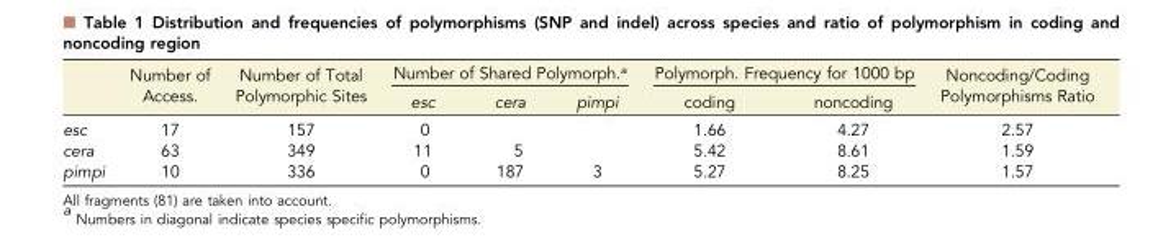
<table><thead><tr><td rowspan="2"></td><td rowspan="2">Number of Access.</td><td rowspan="2">Number of Total Polymorphic Sites</td><td colspan="3">Number of Shared Polymorph.<sup>a</sup></td><td colspan="2">Polymorph. Frequency for 1000 bp</td><td rowspan="2">Noncoding/Coding Polymorphisms Ratio</td></tr><tr><td>esc</td><td>cera</td><td>pimpi</td><td>coding</td><td>noncoding</td></tr></thead><tbody><tr><td>esc</td><td>17</td><td>157</td><td>0</td><td></td><td></td><td>1.66</td><td>4.27</td><td>2.57</td></tr><tr><td>cera</td><td>63</td><td>349</td><td>11</td><td>5</td><td></td><td>5.42</td><td>8.61</td><td>1.59</td></tr><tr><td>pimpi</td><td>10</td><td>336</td><td>0</td><td>187</td><td>3</td><td>5.27</td><td>8.25</td><td>1.57</td></tr></tbody></table>